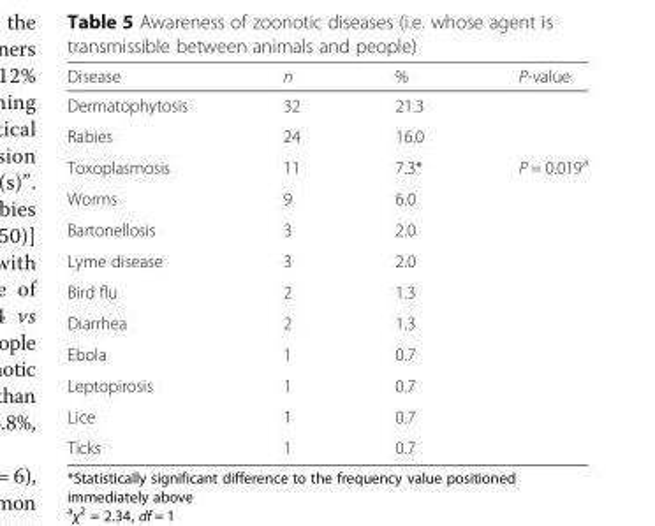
<table><thead><tr><td>Disease</td><td>n</td><td>%</td><td>P-value</td></tr></thead><tbody><tr><td>Dermatophytosis</td><td>32</td><td>21.3</td><td></td></tr><tr><td>Rabies</td><td>24</td><td>16.0</td><td></td></tr><tr><td>Toxoplasmosis</td><td>11</td><td>7.3*</td><td>P = 0.019<sup>a</sup></td></tr><tr><td>Worms</td><td>9</td><td>6.0</td><td></td></tr><tr><td>Bartonellosis</td><td>3</td><td>2.0</td><td></td></tr><tr><td>Lyme disease</td><td>3</td><td>2.0</td><td></td></tr><tr><td>Bird flu</td><td>2</td><td>1.3</td><td></td></tr><tr><td>Diarrhea</td><td>2</td><td>1.3</td><td></td></tr><tr><td>Ebola</td><td>1</td><td>0.7</td><td></td></tr><tr><td>Leptopirosis</td><td>1</td><td>0.7</td><td></td></tr><tr><td>Lice</td><td>1</td><td>0.7</td><td></td></tr><tr><td>Ticks</td><td>1</td><td>0.7</td><td></td></tr></tbody></table>